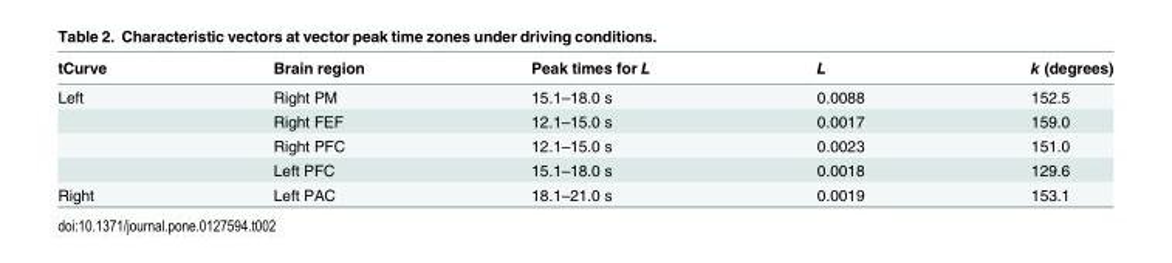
<table><thead><tr><td>tCurve</td><td>Brain region</td><td>Peak times for L</td><td>L</td><td>k (degrees)</td></tr></thead><tbody><tr><td rowspan="4">Left</td><td>Right PM</td><td>15.1–18.0 s</td><td>0.0088</td><td>152.5</td></tr><tr><td>Right FEF</td><td>12.1–15.0 s</td><td>0.0017</td><td>159.0</td></tr><tr><td>Right PFC</td><td>12.1–15.0 s</td><td>0.0023</td><td>151.0</td></tr><tr><td>Left PFC</td><td>15.1–18.0 s</td><td>0.0018</td><td>129.6</td></tr><tr><td>Right</td><td>Left PAC</td><td>18.1–21.0 s</td><td>0.0019</td><td>153.1</td></tr></tbody></table>